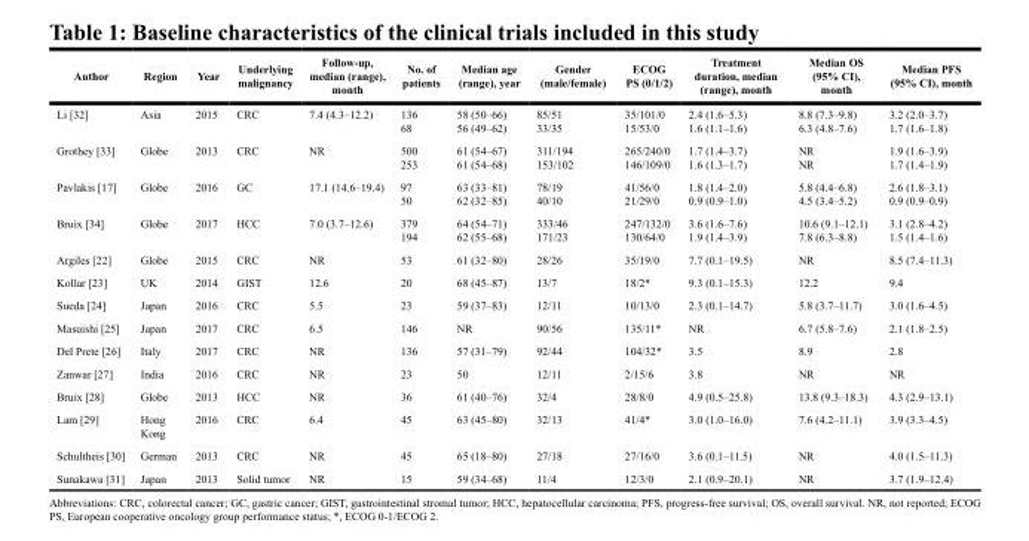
<table><thead><tr><td>Author</td><td>Region</td><td>Year</td><td>Underlying malignancy</td><td>Follow-up, median (range), month</td><td>No. of patients</td><td>Median age (range), year</td><td>Gender (male/female)</td><td>ECOG PS (0/1/2)</td><td>Treatment duration, median (range), month</td><td>Median OS (95% CI), month</td><td>Median PFS (95% CI), month</td></tr></thead><tbody><tr><td>Li [32]</td><td>Asia</td><td>2015</td><td>CRC</td><td>7.4 (4.3–12.2)</td><td>136 68</td><td>58 (50–66) 56 (49–62)</td><td>85/51 33/35</td><td>35/101/0 15/53/0</td><td>2.4 (1.6–5.3) 1.6 (1.1–1.6)</td><td>8.8 (7.3–9.8) 6.3 (4.8–7.6)</td><td>3.2 (2.0–3.7) 1.7 (1.6–1.8)</td></tr><tr><td>Grothey [33]</td><td>Globe</td><td>2013</td><td>CRC</td><td>NR</td><td>500 253</td><td>61 (54–67) 61 (54–68)</td><td>311/194 153/102</td><td>265/240/0 146/109/0</td><td>1.7 (1.4–3.7) 1.6 (1.3–1.7)</td><td>NR NR</td><td>1.9 (1.6–3.9) 1.7 (1.4–1.9)</td></tr><tr><td>Pavlakis [17]</td><td>Globe</td><td>2016</td><td>GC</td><td>17.1 (14.6–19.4)</td><td>97 50</td><td>63 (33–81) 62 (32–85)</td><td>78/19 40/10</td><td>41/56/0 21/29/0</td><td>1.8 (1.4–2.0) 0.9 (0.9–1.0)</td><td>5.8 (4.4–6.8) 4.5 (3.4–5.2)</td><td>2.6 (1.8–3.1) 0.9 (0.9–0.9)</td></tr><tr><td>Bruix [34]</td><td>Globe</td><td>2017</td><td>HCC</td><td>7.0 (3.7–12.6)</td><td>379 194</td><td>64 (54–71) 62 (55–68)</td><td>333/46 171/23</td><td>247/132/0 130/64/0</td><td>3.6 (1.6–7.6) 1.9 (1.4–3.9)</td><td>10.6 (9.1–12.1) 7.8 (6.3–8.8)</td><td>3.1 (2.8–4.2) 1.5 (1.4–1.6)</td></tr><tr><td>Argiles [22]</td><td>Globe</td><td>2015</td><td>CRC</td><td>NR</td><td>53</td><td>61 (32–80)</td><td>28/26</td><td>35/19/0</td><td>7.7 (0.1–19.5)</td><td>NR</td><td>8.5 (7.4–11.3)</td></tr><tr><td>Kollar [23]</td><td>UK</td><td>2014</td><td>GIST</td><td>12.6</td><td>20</td><td>68 (45–87)</td><td>13/7</td><td>18/2*</td><td>9.3 (0.1–15.3)</td><td>12.2</td><td>9.4</td></tr><tr><td>Sueda [24]</td><td>Japan</td><td>2016</td><td>CRC</td><td>5.5</td><td>23</td><td>59 (37–83)</td><td>12/11</td><td>10/13/0</td><td>2.3 (0.1–14.7)</td><td>5.8 (3.7–11.7)</td><td>3.0 (1.6–4.5)</td></tr><tr><td>Masuishi [25]</td><td>Japan</td><td>2017</td><td>CRC</td><td>6.5</td><td>146</td><td>NR</td><td>90/56</td><td>135/11*</td><td>NR</td><td>6.7 (5.8–7.6)</td><td>2.1 (1.8–2.5)</td></tr><tr><td>Del Prete [26]</td><td>Italy</td><td>2017</td><td>CRC</td><td>NR</td><td>136</td><td>57 (31–79)</td><td>92/44</td><td>104/32*</td><td>3.5</td><td>8.9</td><td>2.8</td></tr><tr><td>Zanwar [27]</td><td>India</td><td>2016</td><td>CRC</td><td>NR</td><td>23</td><td>50</td><td>12/11</td><td>2/15/6</td><td>3.8</td><td>NR</td><td>NR</td></tr><tr><td>Bruix [28]</td><td>Globe</td><td>2013</td><td>HCC</td><td>NR</td><td>36</td><td>61 (40–76)</td><td>32/4</td><td>28/8/0</td><td>4.9 (0.5–25.8)</td><td>13.8 (9.3–18.3)</td><td>4.3 (2.9–13.1)</td></tr><tr><td>Lam [29]</td><td>Hong Kong</td><td>2016</td><td>CRC</td><td>6.4</td><td>45</td><td>63 (45–80)</td><td>32/13</td><td>41/4*</td><td>3.0 (1.0–16.0)</td><td>7.6 (4.2–11.1)</td><td>3.9 (3.3–4.5)</td></tr><tr><td>Schultheis [30]</td><td>German</td><td>2013</td><td>CRC</td><td>NR</td><td>45</td><td>65 (18–80)</td><td>27/18</td><td>27/16/0</td><td>3.6 (0.1–11.5)</td><td>NR</td><td>4.0 (1.5–11.3)</td></tr><tr><td>Sunakawa [31]</td><td>Japan</td><td>2013</td><td>Solid tumor</td><td>NR</td><td>15</td><td>59 (34–68)</td><td>11/4</td><td>12/3/0</td><td>2.1 (0.9–20.1)</td><td>NR</td><td>3.7 (1.9–12.4)</td></tr></tbody></table>